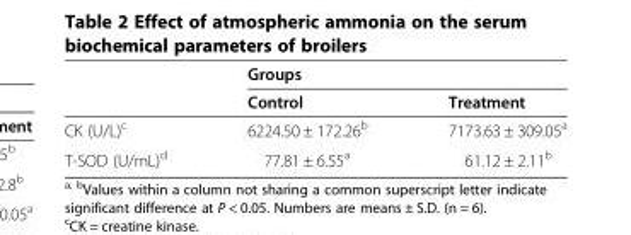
<table><thead><tr><td rowspan="2"></td><td colspan="2">Groups</td></tr><tr><td>Control</td><td>Treatment</td></tr></thead><tbody><tr><td>CK (U/L)<sup>c</sup></td><td>6224.50 ± 172.26<sup>b</sup></td><td>7173.63 ± 309.05<sup>a</sup></td></tr><tr><td>T-SOD (U/mL)<sup>d</sup></td><td>77.81 ± 6.55<sup>a</sup></td><td>61.12 ± 2.11<sup>b</sup></td></tr></tbody></table>